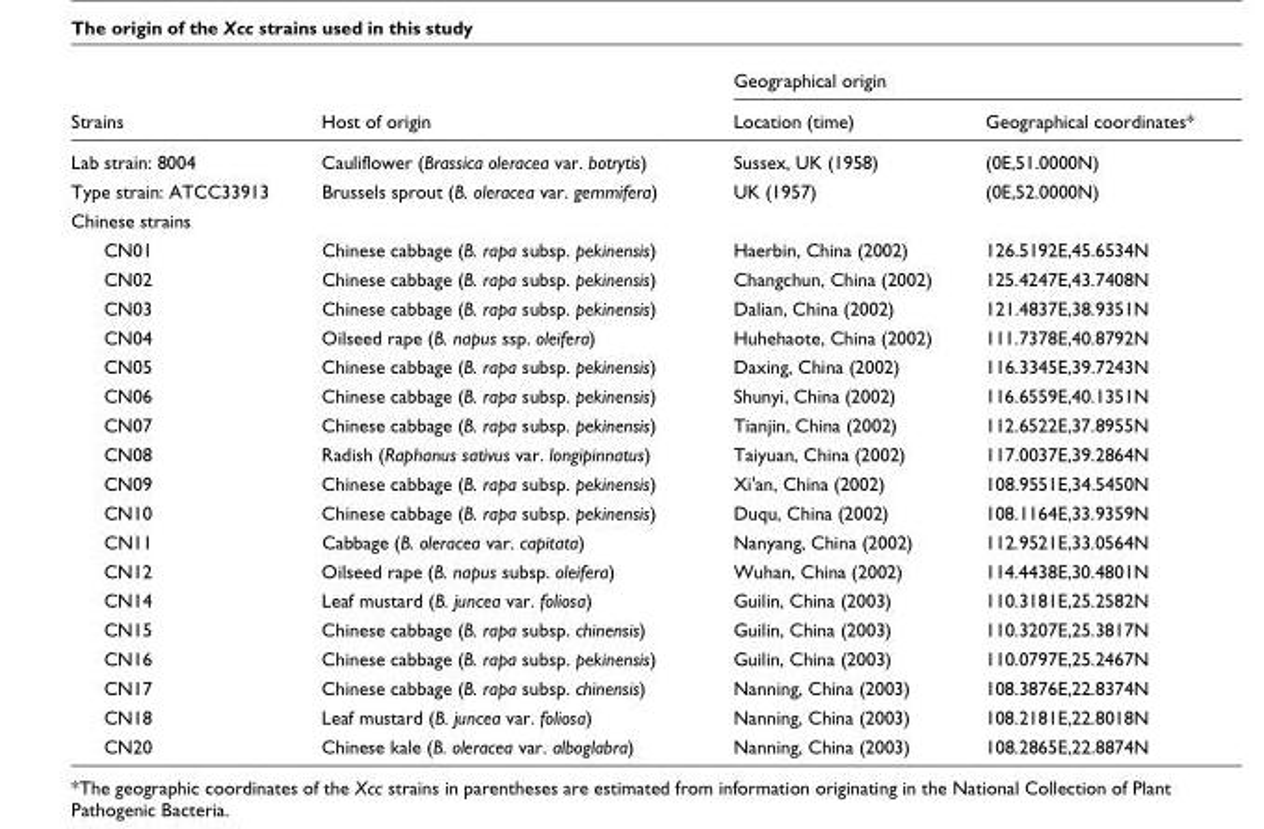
<table><thead><tr><td rowspan="2">Strains</td><td rowspan="2">Host of origin</td><td colspan="2">Geographical origin</td></tr><tr><td>Location (time)</td><td>Geographical coordinates*</td></tr></thead><tbody><tr><td>Lab strain: 8004</td><td>Cauliflower (Brassica oleracea var. botrytis)</td><td>Sussex, UK (1958)</td><td>(0E,51.0000N)</td></tr><tr><td>Type strain: ATCC33913</td><td>Brussels sprout (B. oleracea var. gemmifera)</td><td>UK (1957)</td><td>(0E,52.0000N)</td></tr><tr><td colspan="4">Chinese strains</td></tr><tr><td>CN01</td><td>Chinese cabbage (B. rapa subsp. pekinensis)</td><td>Haerbin, China (2002)</td><td>126.5192E,45.6534N</td></tr><tr><td>CN02</td><td>Chinese cabbage (B. rapa subsp. pekinensis)</td><td>Changchun, China (2002)</td><td>125.4247E,43.7408N</td></tr><tr><td>CN03</td><td>Chinese cabbage (B. rapa subsp. pekinensis)</td><td>Dalian, China (2002)</td><td>121.4837E,38.9351N</td></tr><tr><td>CN04</td><td>Oilseed rape (B. napus ssp. oleifera)</td><td>Huhehaote, China (2002)</td><td>111.7378E,40.8792N</td></tr><tr><td>CN05</td><td>Chinese cabbage (B. rapa subsp. pekinensis)</td><td>Daxing, China (2002)</td><td>116.3345E,39.7243N</td></tr><tr><td>CN06</td><td>Chinese cabbage (B. rapa subsp. pekinensis)</td><td>Shunyi, China (2002)</td><td>116.6559E,40.1351N</td></tr><tr><td>CN07</td><td>Chinese cabbage (B. rapa subsp. pekinensis)</td><td>Tianjin, China (2002)</td><td>112.6522E,37.8955N</td></tr><tr><td>CN08</td><td>Radish (Raphanus sativus var. longipinnatus)</td><td>Taiyuan, China (2002)</td><td>117.0037E,39.2864N</td></tr><tr><td>CN09</td><td>Chinese cabbage (B. rapa subsp. pekinensis)</td><td>Xi&#x27;an, China (2002)</td><td>108.9551E,34.5450N</td></tr><tr><td>CN10</td><td>Chinese cabbage (B. rapa subsp. pekinensis)</td><td>Duqu, China (2002)</td><td>108.1164E,33.9359N</td></tr><tr><td>CN11</td><td>Cabbage (B. oleracea var. capitata)</td><td>Nanyang, China (2002)</td><td>112.9521E,33.0564N</td></tr><tr><td>CN12</td><td>Oilseed rape (B. napus subsp. oleifera)</td><td>Wuhan, China (2002)</td><td>114.4438E,30.4801N</td></tr><tr><td>CN14</td><td>Leaf mustard (B. juncea var. foliosa)</td><td>Guilin, China (2003)</td><td>110.3181E,25.2582N</td></tr><tr><td>CN15</td><td>Chinese cabbage (B. rapa subsp. chinensis)</td><td>Guilin, China (2003)</td><td>110.3207E,25.3817N</td></tr><tr><td>CN16</td><td>Chinese cabbage (B. rapa subsp. pekinensis)</td><td>Guilin, China (2003)</td><td>110.0797E,25.2467N</td></tr><tr><td>CN17</td><td>Chinese cabbage (B. rapa subsp. chinensis)</td><td>Nanning, China (2003)</td><td>108.3876E,22.8374N</td></tr><tr><td>CN18</td><td>Leaf mustard (B. juncea var. foliosa)</td><td>Nanning, China (2003)</td><td>108.2181E,22.8018N</td></tr><tr><td>CN20</td><td>Chinese kale (B. oleracea var. alboglabra)</td><td>Nanning, China (2003)</td><td>108.2865E,22.8874N</td></tr></tbody></table>